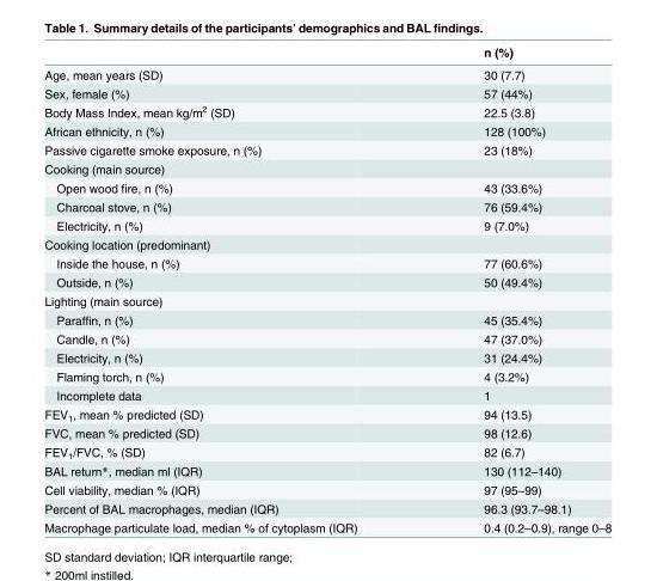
<table><thead><tr><td></td><td>n (%)</td></tr></thead><tbody><tr><td>Age, mean years (SD)</td><td>30 (7.7)</td></tr><tr><td>Sex, female (%)</td><td>57 (44%)</td></tr><tr><td>Body Mass Index, mean kg/m<sup>2</sup> (SD)</td><td>22.5 (3.8)</td></tr><tr><td>African ethnicity, n (%)</td><td>128 (100%)</td></tr><tr><td>Passive cigarette smoke exposure, n (%)</td><td>23 (18%)</td></tr><tr><td colspan="2">Cooking (main source)</td></tr><tr><td>Open wood fire, n (%)</td><td>43 (33.6%)</td></tr><tr><td>Charcoal stove, n (%)</td><td>76 (59.4%)</td></tr><tr><td>Electricity, n (%)</td><td>9 (7.0%)</td></tr><tr><td colspan="2">Cooking location (predominant)</td></tr><tr><td>Inside the house, n (%)</td><td>77 (60.6%)</td></tr><tr><td>Outside, n (%)</td><td>50 (49.4%)</td></tr><tr><td colspan="2">Lighting (main source)</td></tr><tr><td>Paraffin, n (%)</td><td>45 (35.4%)</td></tr><tr><td>Candle, n (%)</td><td>47 (37.0%)</td></tr><tr><td>Electricity, n (%)</td><td>31 (24.4%)</td></tr><tr><td>Flaming torch, n (%)</td><td>4 (3.2%)</td></tr><tr><td>Incomplete data</td><td>1</td></tr><tr><td>FEV<sub>1</sub>, mean % predicted (SD)</td><td>94 (13.5)</td></tr><tr><td>FVC, mean % predicted (SD)</td><td>98 (12.6)</td></tr><tr><td>FEV<sub>1</sub>/FVC, % (SD)</td><td>82 (6.7)</td></tr><tr><td>BAL return*, median ml (IQR)</td><td>130 (112–140)</td></tr><tr><td>Cell viability, median % (IQR)</td><td>97 (95–99)</td></tr><tr><td>Percent of BAL macrophages, median (IQR)</td><td>96.3 (93.7–98.1)</td></tr><tr><td>Macrophage particulate load, median % of cytoplasm (IQR)</td><td>0.4 (0.2–0.9), range 0–8</td></tr></tbody></table>